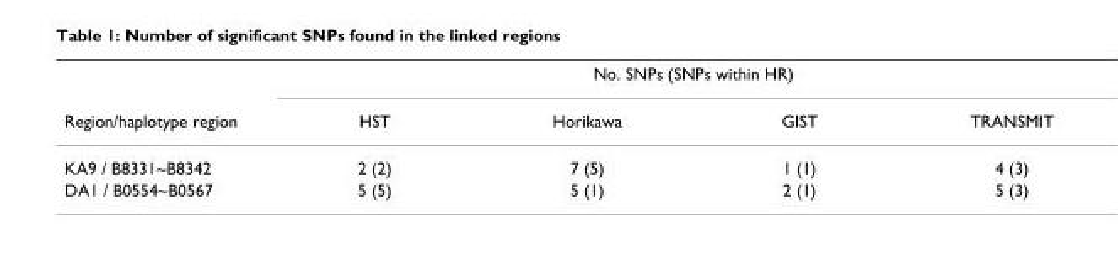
<table><thead><tr><td rowspan="2">Region/haplotype region</td><td colspan="4">No. SNPs (SNPs within HR)</td></tr><tr><td>HST</td><td>Horikawa</td><td>GIST</td><td>TRANSMIT</td></tr></thead><tbody><tr><td>KA9 / B8331~B8342</td><td>2 (2)</td><td>7 (5)</td><td>1 (1)</td><td>4 (3)</td></tr><tr><td>DA1 / B0554~B0567</td><td>5 (5)</td><td>5 (1)</td><td>2 (1)</td><td>5 (3)</td></tr></tbody></table>